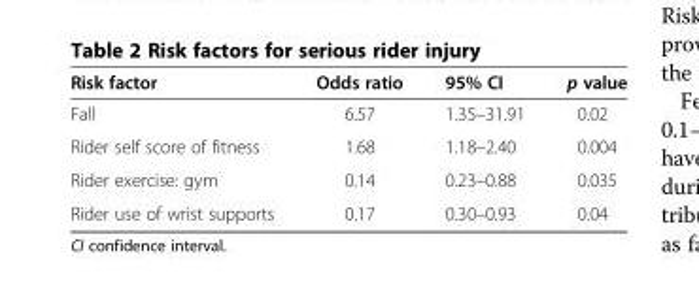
<table><thead><tr><td>Risk factor</td><td>Odds ratio</td><td>95% CI</td><td>p value</td></tr></thead><tbody><tr><td>Fall</td><td>6.57</td><td>1.35–31.91</td><td>0.02</td></tr><tr><td>Rider self score of fitness</td><td>1.68</td><td>1.18–2.40</td><td>0.004</td></tr><tr><td>Rider exercise: gym</td><td>0.14</td><td>0.23–0.88</td><td>0.035</td></tr><tr><td>Rider use of wrist supports</td><td>0.17</td><td>0.30–0.93</td><td>0.04</td></tr></tbody></table>